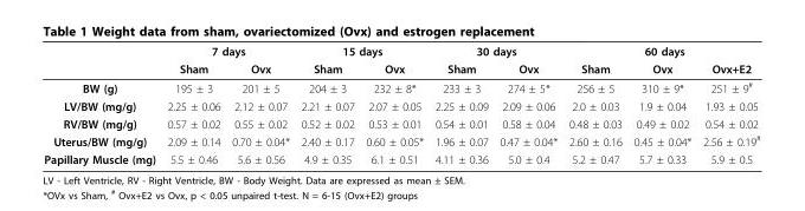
<table><thead><tr><td rowspan="2"></td><td colspan="2">7 days</td><td colspan="2">15 days</td><td colspan="2">30 days</td><td colspan="3">60 days</td></tr><tr><td>Sham</td><td>Ovx</td><td>Sham</td><td>Ovx</td><td>Sham</td><td>Ovx</td><td>Sham</td><td>Ovx</td><td>Ovx+E2</td></tr></thead><tbody><tr><td>BW (g)</td><td>195 ± 3</td><td>201 ± 5</td><td>204 ± 3</td><td>232 ± 8*</td><td>233 ± 3</td><td>274 ± 5*</td><td>256 ± 5</td><td>310 ± 9*</td><td>251 ± 9<sup>#</sup></td></tr><tr><td>LV/BW (mg/g)</td><td>2.25 ± 0.06</td><td>2.12 ± 0.07</td><td>2.21 ± 0.07</td><td>2.07 ± 0.05</td><td>2.25 ± 0.09</td><td>2.09 ± 0.06</td><td>2.0 ± 0.03</td><td>1.9 ± 0.04</td><td>1.93 ± 0.05</td></tr><tr><td>RV/BW (mg/g)</td><td>0.57 ± 0.02</td><td>0.55 ± 0.02</td><td>0.52 ± 0.02</td><td>0.53 ± 0.01</td><td>0.54 ± 0.01</td><td>0.58 ± 0.04</td><td>0.48 ± 0.03</td><td>0.49 ± 0.02</td><td>0.54 ± 0.02</td></tr><tr><td>Uterus/BW (mg/g)</td><td>2.09 ± 0.14</td><td>0.70 ± 0.04*</td><td>2.40 ± 0.17</td><td>0.60 ± 0.05*</td><td>1.96 ± 0.07</td><td>0.47 ± 0.04*</td><td>2.60 ± 0.16</td><td>0.45 ± 0.04*</td><td>2.56 ± 0.19<sup>#</sup></td></tr><tr><td>Papillary Muscle (mg)</td><td>5.5 ± 0.46</td><td>5.6 ± 0.56</td><td>4.9 ± 0.35</td><td>6.1 ± 0.51</td><td>4.11 ± 0.36</td><td>5.0 ± 0.4</td><td>5.2 ± 0.47</td><td>5.7 ± 0.33</td><td>5.9 ± 0.5</td></tr></tbody></table>